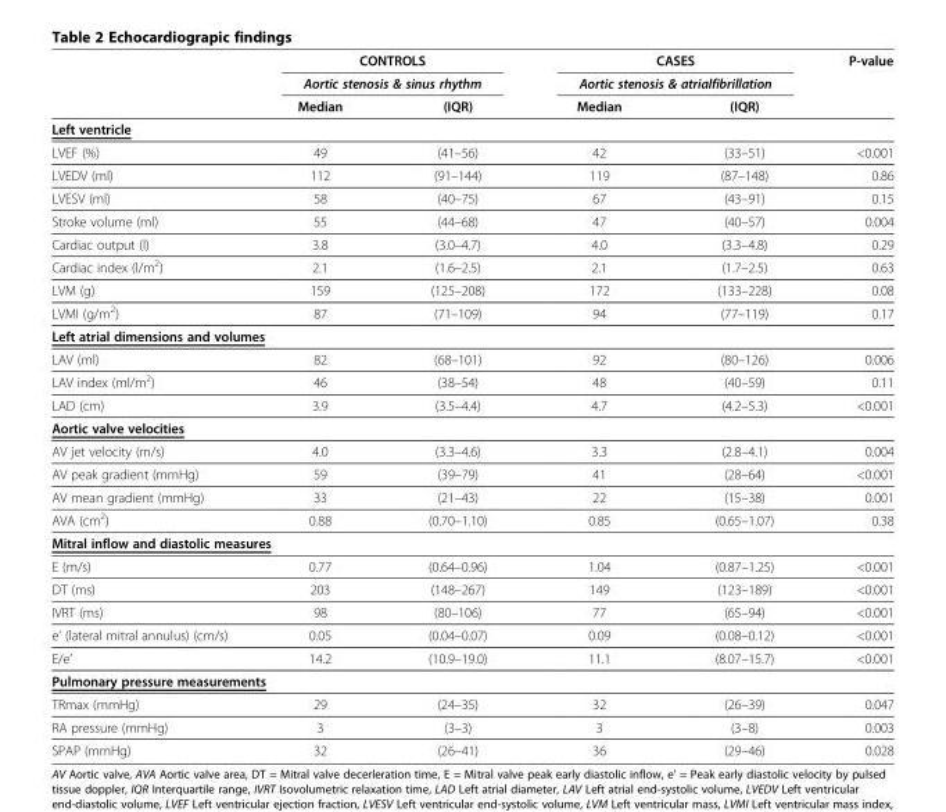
<table><thead><tr><td rowspan="3"></td><td rowspan="2" colspan="2">CONTROLS Aortic stenosis &amp; sinus rhythm</td><td rowspan="2" colspan="2">CASES Aortic stenosis &amp; atrialfibrillation</td><td rowspan="3">P-value</td></tr><tr></tr><tr><td>Median</td><td>(IQR)</td><td>Median</td><td>(IQR)</td></tr></thead><tbody><tr><td colspan="6">Left ventricle</td></tr><tr><td>LVEF (%)</td><td>49</td><td>(41–56)</td><td>42</td><td>(33–51)</td><td>&lt;0.001</td></tr><tr><td>LVEDV (ml)</td><td>112</td><td>(91–144)</td><td>119</td><td>(87–148)</td><td>0.86</td></tr><tr><td>LVESV (ml)</td><td>58</td><td>(40–75)</td><td>67</td><td>(43–91)</td><td>0.15</td></tr><tr><td>Stroke volume (ml)</td><td>55</td><td>(44–68)</td><td>47</td><td>(40–57)</td><td>0.004</td></tr><tr><td>Cardiac output (l)</td><td>3.8</td><td>(3.0–4.7)</td><td>4.0</td><td>(3.3–4.8)</td><td>0.29</td></tr><tr><td>Cardiac index (l/m<sup>2</sup>)</td><td>2.1</td><td>(1.6–2.5)</td><td>2.1</td><td>(1.7–2.5)</td><td>0.63</td></tr><tr><td>LVM (g)</td><td>159</td><td>(125–208)</td><td>172</td><td>(133–228)</td><td>0.08</td></tr><tr><td>LVMI (g/m<sup>2</sup>)</td><td>87</td><td>(71–109)</td><td>94</td><td>(77–119)</td><td>0.17</td></tr><tr><td colspan="6">Left atrial dimensions and volumes</td></tr><tr><td>LAV (ml)</td><td>82</td><td>(68–101)</td><td>92</td><td>(80–126)</td><td>0.006</td></tr><tr><td>LAV index (ml/m<sup>2</sup>)</td><td>46</td><td>(38–54)</td><td>48</td><td>(40–59)</td><td>0.11</td></tr><tr><td>LAD (cm)</td><td>3.9</td><td>(3.5–4.4)</td><td>4.7</td><td>(4.2–5.3)</td><td>&lt;0.001</td></tr><tr><td colspan="6">Aortic valve velocities</td></tr><tr><td>AV jet velocity (m/s)</td><td>4.0</td><td>(3.3–4.6)</td><td>3.3</td><td>(2.8–4.1)</td><td>0.004</td></tr><tr><td>AV peak gradient (mmHg)</td><td>59</td><td>(39–79)</td><td>41</td><td>(28–64)</td><td>&lt;0.001</td></tr><tr><td>AV mean gradient (mmHg)</td><td>33</td><td>(21–43)</td><td>22</td><td>(15–38)</td><td>0.001</td></tr><tr><td>AVA (cm<sup>2</sup>)</td><td>0.88</td><td>(0.70–1.10)</td><td>0.85</td><td>(0.65–1.07)</td><td>0.38</td></tr><tr><td colspan="6">Mitral inflow and diastolic measures</td></tr><tr><td>E (m/s)</td><td>0.77</td><td>(0.64–0.96)</td><td>1.04</td><td>(0.87–1.25)</td><td>&lt;0.001</td></tr><tr><td>DT (ms)</td><td>203</td><td>(148–267)</td><td>149</td><td>(123–189)</td><td>&lt;0.001</td></tr><tr><td>IVRT (ms)</td><td>98</td><td>(80–106)</td><td>77</td><td>(65–94)</td><td>&lt;0.001</td></tr><tr><td>e’ (lateral mitral annulus) (cm/s)</td><td>0.05</td><td>(0.04–0.07)</td><td>0.09</td><td>(0.08–0.12)</td><td>&lt;0.001</td></tr><tr><td>E/e’</td><td>14.2</td><td>(10.9–19.0)</td><td>11.1</td><td>(8.07–15.7)</td><td>&lt;0.001</td></tr><tr><td colspan="6">Pulmonary pressure measurements</td></tr><tr><td>TRmax (mmHg)</td><td>29</td><td>(24–35)</td><td>32</td><td>(26–39)</td><td>0.047</td></tr><tr><td>RA pressure (mmHg)</td><td>3</td><td>(3–3)</td><td>3</td><td>(3–8)</td><td>0.003</td></tr><tr><td>SPAP (mmHg)</td><td>32</td><td>(26–41)</td><td>36</td><td>(29–46)</td><td>0.028</td></tr></tbody></table>